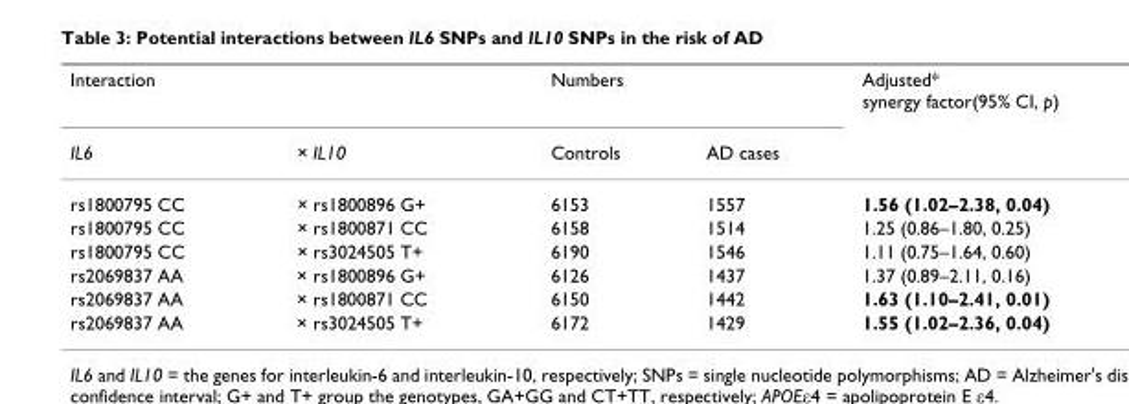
<table><thead><tr><td rowspan="2">Interaction IL6</td><td rowspan="2">× IL10</td><td rowspan="2">Numbers Controls</td><td rowspan="2">AD cases</td><td rowspan="2">Adjusted* synergy factor(95% CI, p)</td></tr><tr></tr></thead><tbody><tr><td>rs1800795 CC</td><td>× rs1800896 G+</td><td>6153</td><td>1557</td><td>1.56 (1.02–2.38, 0.04)</td></tr><tr><td>rs1800795 CC</td><td>× rs1800871 CC</td><td>6158</td><td>1514</td><td>1.25 (0.86–1.80, 0.25)</td></tr><tr><td>rs1800795 CC</td><td>× rs3024505 T+</td><td>6190</td><td>1546</td><td>1.11 (0.75–1.64, 0.60)</td></tr><tr><td>rs2069837 AA</td><td>× rs1800896 G+</td><td>6126</td><td>1437</td><td>1.37 (0.89–2.11, 0.16)</td></tr><tr><td>rs2069837 AA</td><td>× rs1800871 CC</td><td>6150</td><td>1442</td><td>1.63 (1.10–2.41, 0.01)</td></tr><tr><td>rs2069837 AA</td><td>× rs3024505 T+</td><td>6172</td><td>1429</td><td>1.55 (1.02–2.36, 0.04)</td></tr></tbody></table>